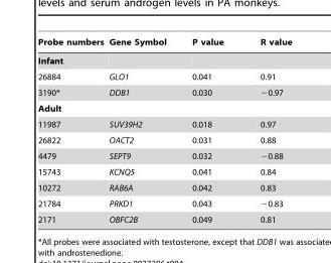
<table><thead><tr><td>Probe numbers</td><td>Gene Symbol</td><td>P value</td><td>R value</td></tr></thead><tbody><tr><td colspan="4">Infant</td></tr><tr><td>26884</td><td>GLO1</td><td>0.041</td><td>0.91</td></tr><tr><td>3190*</td><td>DDB1</td><td>0.030</td><td>−0.97</td></tr><tr><td colspan="4">Adult</td></tr><tr><td>11987</td><td>SUV39H2</td><td>0.018</td><td>0.97</td></tr><tr><td>26822</td><td>OACT2</td><td>0.031</td><td>0.88</td></tr><tr><td>4479</td><td>SEPT9</td><td>0.032</td><td>−0.88</td></tr><tr><td>15743</td><td>KCNQ5</td><td>0.041</td><td>0.84</td></tr><tr><td>10272</td><td>RAB6A</td><td>0.042</td><td>0.83</td></tr><tr><td>21784</td><td>PRKD1</td><td>0.043</td><td>−0.83</td></tr><tr><td>2171</td><td>OBFC2B</td><td>0.049</td><td>0.81</td></tr></tbody></table>